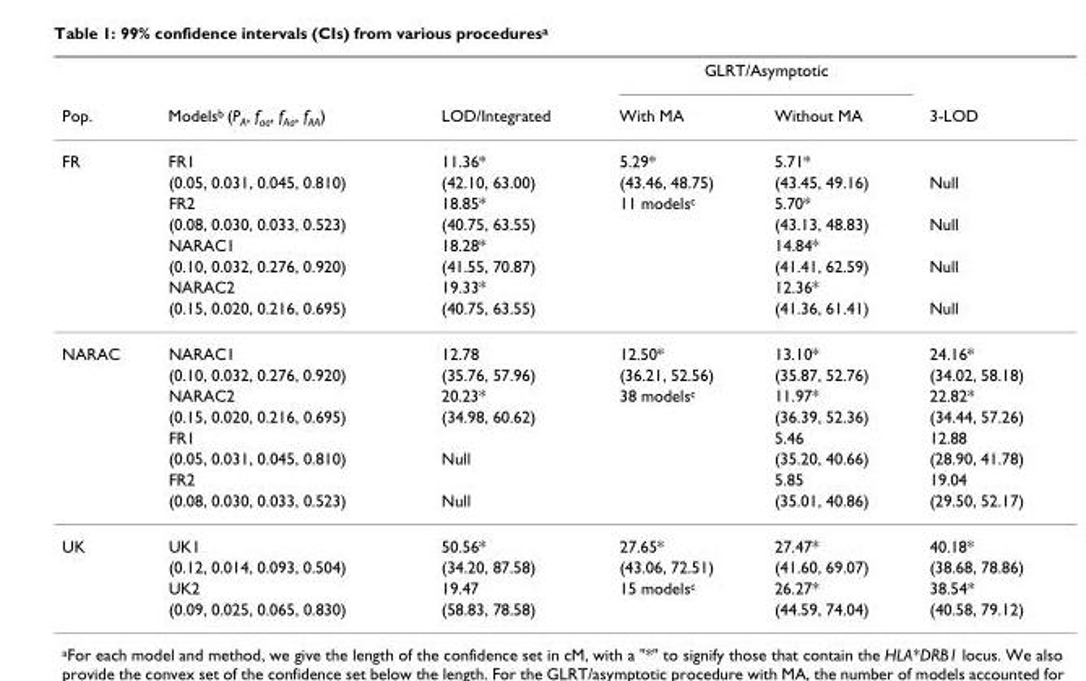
<table><thead><tr><td rowspan="2">Pop.</td><td rowspan="2">Models<sup>b</sup> (P<sub>A</sub>, f<sub>aa</sub>, f<sub>Aa</sub>, f<sub>AA</sub>)</td><td rowspan="2">LOD/Integrated</td><td colspan="2">GLRT/Asymptotic</td><td rowspan="2">3-LOD</td></tr><tr><td>With MA</td><td>Without MA</td></tr></thead><tbody><tr><td rowspan="8">FR</td><td>FR1</td><td>11.36*</td><td>5.29*</td><td>5.71*</td><td></td></tr><tr><td>(0.05, 0.031, 0.045, 0.810)</td><td>(42.10, 63.00)</td><td>(43.46, 48.75)</td><td>(43.45, 49.16)</td><td>Null</td></tr><tr><td>FR2</td><td>18.85*</td><td>11 models<sup>c</sup></td><td>5.70*</td><td></td></tr><tr><td>(0.08, 0.030, 0.033, 0.523)</td><td>(40.75, 63.55)</td><td></td><td>(43.13, 48.83)</td><td>Null</td></tr><tr><td>NARAC1</td><td>18.28*</td><td></td><td>14.84*</td><td></td></tr><tr><td>(0.10, 0.032, 0.276, 0.920)</td><td>(41.55, 70.87)</td><td></td><td>(41.41, 62.59)</td><td>Null</td></tr><tr><td>NARAC2</td><td>19.33*</td><td></td><td>12.36*</td><td></td></tr><tr><td>(0.15, 0.020, 0.216, 0.695)</td><td>(40.75, 63.55)</td><td></td><td>(41.36, 61.41)</td><td>Null</td></tr><tr><td rowspan="8">NARAC</td><td>NARAC1</td><td>12.78</td><td>12.50*</td><td>13.10*</td><td>24.16*</td></tr><tr><td>(0.10, 0.032, 0.276, 0.920)</td><td>(35.76, 57.96)</td><td>(36.21, 52.56)</td><td>(35.87, 52.76)</td><td>(34.02, 58.18)</td></tr><tr><td>NARAC2</td><td>20.23*</td><td>38 models<sup>c</sup></td><td>11.97*</td><td>22.82*</td></tr><tr><td>(0.15, 0.020, 0.216, 0.695)</td><td>(34.98, 60.62)</td><td></td><td>(36.39, 52.36)</td><td>(34.44, 57.26)</td></tr><tr><td>FR1</td><td></td><td></td><td>5.46</td><td>12.88</td></tr><tr><td>(0.05, 0.031, 0.045, 0.810)</td><td>Null</td><td></td><td>(35.20, 40.66)</td><td>(28.90, 41.78)</td></tr><tr><td>FR2</td><td></td><td></td><td>5.85</td><td>19.04</td></tr><tr><td>(0.08, 0.030, 0.033, 0.523)</td><td>Null</td><td></td><td>(35.01, 40.86)</td><td>(29.50, 52.17)</td></tr><tr><td rowspan="4">UK</td><td>UK1</td><td>50.56*</td><td>27.65*</td><td>27.47*</td><td>40.18*</td></tr><tr><td>(0.12, 0.014, 0.093, 0.504)</td><td>(34.20, 87.58)</td><td>(43.06, 72.51)</td><td>(41.60, 69.07)</td><td>(38.68, 78.86)</td></tr><tr><td>UK2</td><td>19.47</td><td>15 models<sup>c</sup></td><td>26.27*</td><td>38.54*</td></tr><tr><td>(0.09, 0.025, 0.065, 0.830)</td><td>(58.83, 78.58)</td><td></td><td>(44.59, 74.04)</td><td>(40.58, 79.12)</td></tr></tbody></table>